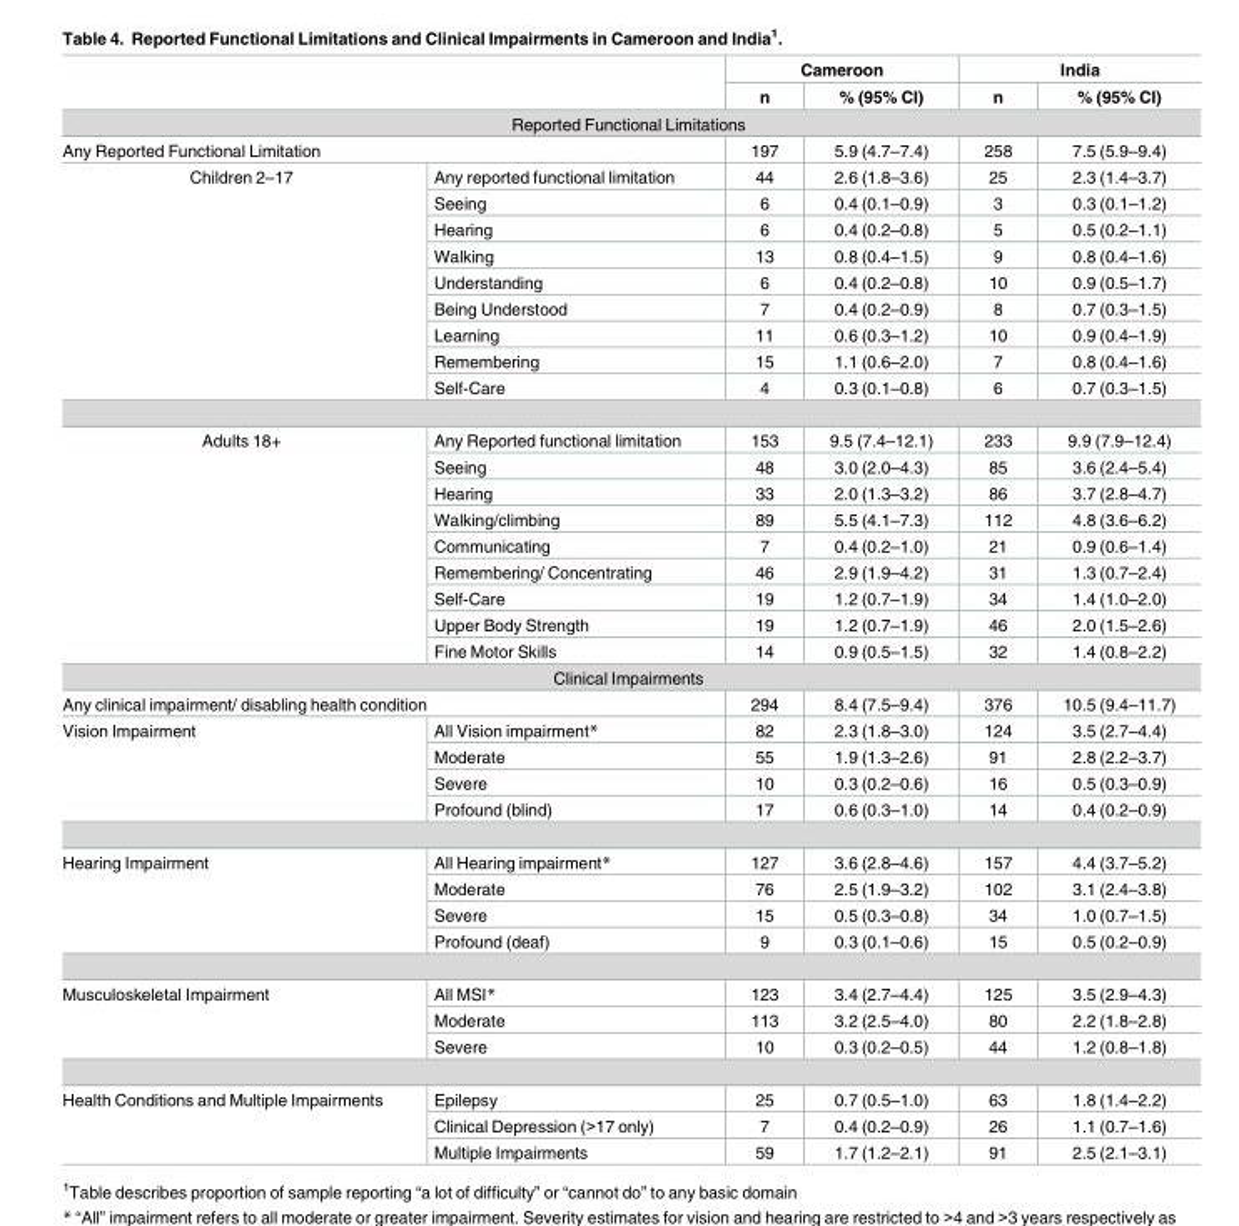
<table><thead><tr><td rowspan="2"></td><td rowspan="2"></td><td colspan="2">Cameroon</td><td colspan="2">India</td></tr><tr><td>n</td><td>% (95% CI)</td><td>n</td><td>% (95% CI)</td></tr></thead><tbody><tr><td colspan="6">Reported Functional Limitations</td></tr><tr><td colspan="2">Any Reported Functional Limitation</td><td>197</td><td>5.9 (4.7–7.4)</td><td>258</td><td>7.5 (5.9–9.4)</td></tr><tr><td rowspan="9">Children 2–17</td><td>Any reported functional limitation</td><td>44</td><td>2.6 (1.8–3.6)</td><td>25</td><td>2.3 (1.4–3.7)</td></tr><tr><td>Seeing</td><td>6</td><td>0.4 (0.1–0.9)</td><td>3</td><td>0.3 (0.1–1.2)</td></tr><tr><td>Hearing</td><td>6</td><td>0.4 (0.2–0.8)</td><td>5</td><td>0.5 (0.2–1.1)</td></tr><tr><td>Walking</td><td>13</td><td>0.8 (0.4–1.5)</td><td>9</td><td>0.8 (0.4–1.6)</td></tr><tr><td>Understanding</td><td>6</td><td>0.4 (0.2–0.8)</td><td>10</td><td>0.9 (0.5–1.7)</td></tr><tr><td>Being Understood</td><td>7</td><td>0.4 (0.2–0.9)</td><td>8</td><td>0.7 (0.3–1.5)</td></tr><tr><td>Learning</td><td>11</td><td>0.6 (0.3–1.2)</td><td>10</td><td>0.9 (0.4–1.9)</td></tr><tr><td>Remembering</td><td>15</td><td>1.1 (0.6–2.0)</td><td>7</td><td>0.8 (0.4–1.6)</td></tr><tr><td>Self-Care</td><td>4</td><td>0.3 (0.1–0.8)</td><td>6</td><td>0.7 (0.3–1.5)</td></tr><tr><td rowspan="9">Adults 18+</td><td>Any Reported functional limitation</td><td>153</td><td>9.5 (7.4–12.1)</td><td>233</td><td>9.9 (7.9–12.4)</td></tr><tr><td>Seeing</td><td>48</td><td>3.0 (2.0–4.3)</td><td>85</td><td>3.6 (2.4–5.4)</td></tr><tr><td>Hearing</td><td>33</td><td>2.0 (1.3–3.2)</td><td>86</td><td>3.7 (2.8–4.7)</td></tr><tr><td>Walking/climbing</td><td>89</td><td>5.5 (4.1–7.3)</td><td>112</td><td>4.8 (3.6–6.2)</td></tr><tr><td>Communicating</td><td>7</td><td>0.4 (0.2–1.0)</td><td>21</td><td>0.9 (0.6–1.4)</td></tr><tr><td>Remembering/ Concentrating</td><td>46</td><td>2.9 (1.9–4.2)</td><td>31</td><td>1.3 (0.7–2.4)</td></tr><tr><td>Self-Care</td><td>19</td><td>1.2 (0.7–1.9)</td><td>34</td><td>1.4 (1.0–2.0)</td></tr><tr><td>Upper Body Strength</td><td>19</td><td>1.2 (0.7–1.9)</td><td>46</td><td>2.0 (1.5–2.6)</td></tr><tr><td>Fine Motor Skills</td><td>14</td><td>0.9 (0.5–1.5)</td><td>32</td><td>1.4 (0.8–2.2)</td></tr><tr><td colspan="6">Clinical Impairments</td></tr><tr><td colspan="2">Any clinical impairment/ disabling health condition</td><td>294</td><td>8.4 (7.5–9.4)</td><td>376</td><td>10.5 (9.4–11.7)</td></tr><tr><td rowspan="4">Vision Impairment</td><td>All Vision impairment*</td><td>82</td><td>2.3 (1.8–3.0)</td><td>124</td><td>3.5 (2.7–4.4)</td></tr><tr><td>Moderate</td><td>55</td><td>1.9 (1.3–2.6)</td><td>91</td><td>2.8 (2.2–3.7)</td></tr><tr><td>Severe</td><td>10</td><td>0.3 (0.2–0.6)</td><td>16</td><td>0.5 (0.3–0.9)</td></tr><tr><td>Profound (blind)</td><td>17</td><td>0.6 (0.3–1.0)</td><td>14</td><td>0.4 (0.2–0.9)</td></tr><tr><td rowspan="4">Hearing Impairment</td><td>All Hearing impairment*</td><td>127</td><td>3.6 (2.8–4.6)</td><td>157</td><td>4.4 (3.7–5.2)</td></tr><tr><td>Moderate</td><td>76</td><td>2.5 (1.9–3.2)</td><td>102</td><td>3.1 (2.4–3.8)</td></tr><tr><td>Severe</td><td>15</td><td>0.5 (0.3–0.8)</td><td>34</td><td>1.0 (0.7–1.5)</td></tr><tr><td>Profound (deaf)</td><td>9</td><td>0.3 (0.1–0.6)</td><td>15</td><td>0.5 (0.2–0.9)</td></tr><tr><td rowspan="3">Musculoskeletal Impairment</td><td>All MSI*</td><td>123</td><td>3.4 (2.7–4.4)</td><td>125</td><td>3.5 (2.9–4.3)</td></tr><tr><td>Moderate</td><td>113</td><td>3.2 (2.5–4.0)</td><td>80</td><td>2.2 (1.8–2.8)</td></tr><tr><td>Severe</td><td>10</td><td>0.3 (0.2–0.5)</td><td>44</td><td>1.2 (0.8–1.8)</td></tr><tr><td rowspan="3">Health Conditions and Multiple Impairments</td><td>Epilepsy</td><td>25</td><td>0.7 (0.5–1.0)</td><td>63</td><td>1.8 (1.4–2.2)</td></tr><tr><td>Clinical Depression (&gt;17 only)</td><td>7</td><td>0.4 (0.2–0.9)</td><td>26</td><td>1.1 (0.7–1.6)</td></tr><tr><td>Multiple Impairments</td><td>59</td><td>1.7 (1.2–2.1)</td><td>91</td><td>2.5 (2.1–3.1)</td></tr></tbody></table>